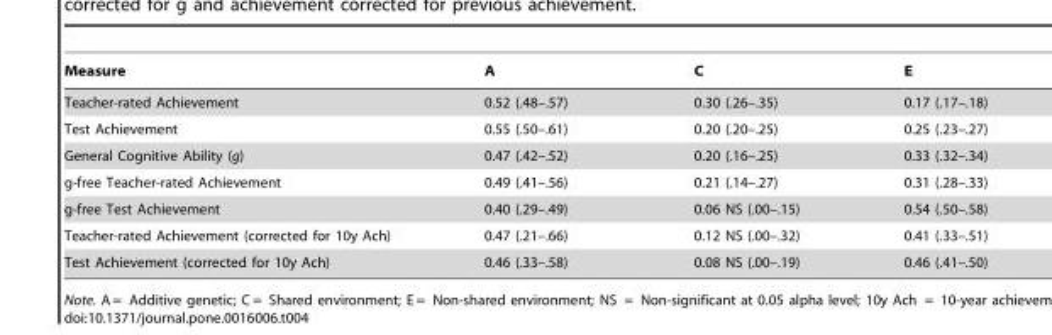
<table><thead><tr><td>Measure</td><td>A</td><td>C</td><td>E</td></tr></thead><tbody><tr><td>Teacher-rated Achievement</td><td>0.52 (.48–.57)</td><td>0.30 (.26–.35)</td><td>0.17 (.17–.18)</td></tr><tr><td>Test Achievement</td><td>0.55 (.50–.61)</td><td>0.20 (.20–.25)</td><td>0.25 (.23–.27)</td></tr><tr><td>General Cognitive Ability (g)</td><td>0.47 (.42–.52)</td><td>0.20 (.16–.25)</td><td>0.33 (.32–.34)</td></tr><tr><td>g-free Teacher-rated Achievement</td><td>0.49 (.41–.56)</td><td>0.21 (.14–.27)</td><td>0.31 (.28–.33)</td></tr><tr><td>g-free Test Achievement</td><td>0.40 (.29–.49)</td><td>0.06 NS (.00–.15)</td><td>0.54 (.50–.58)</td></tr><tr><td>Teacher-rated Achievement (corrected for 10y Ach)</td><td>0.47 (.21–.66)</td><td>0.12 NS (.00–.32)</td><td>0.41 (.33–.51)</td></tr><tr><td>Test Achievement (corrected for 10y Ach)</td><td>0.46 (.33–.58)</td><td>0.08 NS (.00–.19)</td><td>0.46 (.41–.50)</td></tr></tbody></table>